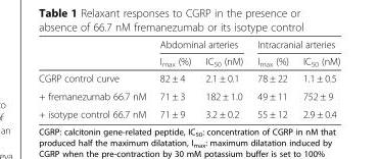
<table><thead><tr><td rowspan="2"></td><td colspan="2">Abdominal arteries</td><td colspan="2">Intracranial arteries</td></tr><tr><td>I<sub>max</sub> (%)</td><td>IC<sub>50</sub> (nM)</td><td>I<sub>max</sub> (%)</td><td>IC<sub>50</sub> (nM)</td></tr></thead><tbody><tr><td>CGRP control curve</td><td>82 ± 4</td><td>2.1 ± 0.1</td><td>78 ± 22</td><td>1.1 ± 0.5</td></tr><tr><td>+ fremanezumab 66.7 nM</td><td>71 ± 3</td><td>182 ± 1.0</td><td>49 ± 11</td><td>752 ± 9</td></tr><tr><td>+ isotype control 66.7 nM</td><td>71 ± 9</td><td>3.2 ± 0.2</td><td>55 ± 12</td><td>2.9 ± 0.4</td></tr></tbody></table>